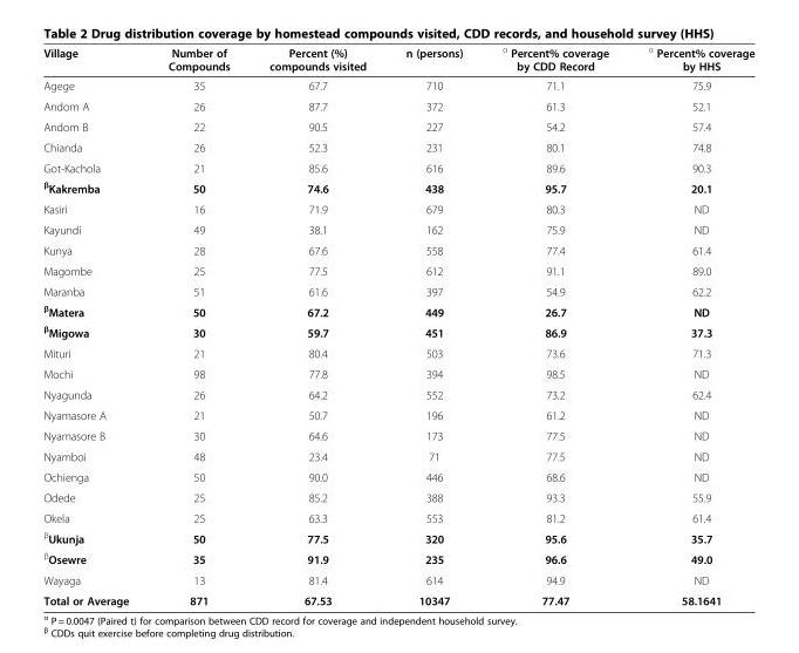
<table><thead><tr><td>Village</td><td>Number of Compounds</td><td>Percent (%) compounds visited</td><td>n (persons)</td><td><sup>α</sup> Percent% coverage by CDD Record</td><td><sup>α</sup> Percent% coverage by HHS</td></tr></thead><tbody><tr><td>Agege</td><td>35</td><td>67.7</td><td>710</td><td>71.1</td><td>75.9</td></tr><tr><td>Andom A</td><td>26</td><td>87.7</td><td>372</td><td>61.3</td><td>52.1</td></tr><tr><td>Andom B</td><td>22</td><td>90.5</td><td>227</td><td>54.2</td><td>57.4</td></tr><tr><td>Chianda</td><td>26</td><td>52.3</td><td>231</td><td>80.1</td><td>74.8</td></tr><tr><td>Got-Kachola</td><td>21</td><td>85.6</td><td>616</td><td>89.6</td><td>90.3</td></tr><tr><td><sup>β</sup>Kakremba</td><td>50</td><td>74.6</td><td>438</td><td>95.7</td><td>20.1</td></tr><tr><td>Kasiri</td><td>16</td><td>71.9</td><td>679</td><td>80.3</td><td>ND</td></tr><tr><td>Kayundi</td><td>49</td><td>38.1</td><td>162</td><td>75.9</td><td>ND</td></tr><tr><td>Kunya</td><td>28</td><td>67.6</td><td>558</td><td>77.4</td><td>61.4</td></tr><tr><td>Magombe</td><td>25</td><td>77.5</td><td>612</td><td>91.1</td><td>89.0</td></tr><tr><td>Maranba</td><td>51</td><td>61.6</td><td>397</td><td>54.9</td><td>62.2</td></tr><tr><td><sup>β</sup>Matera</td><td>50</td><td>67.2</td><td>449</td><td>26.7</td><td>ND</td></tr><tr><td><sup>β</sup>Migowa</td><td>30</td><td>59.7</td><td>451</td><td>86.9</td><td>37.3</td></tr><tr><td>Mituri</td><td>21</td><td>80.4</td><td>503</td><td>73.6</td><td>71.3</td></tr><tr><td>Mochi</td><td>98</td><td>77.8</td><td>394</td><td>98.5</td><td>ND</td></tr><tr><td>Nyagunda</td><td>26</td><td>64.2</td><td>552</td><td>73.2</td><td>62.4</td></tr><tr><td>Nyamasore A</td><td>21</td><td>50.7</td><td>196</td><td>61.2</td><td>ND</td></tr><tr><td>Nyamasore B</td><td>30</td><td>64.6</td><td>173</td><td>77.5</td><td>ND</td></tr><tr><td>Nyamboi</td><td>48</td><td>23.4</td><td>71</td><td>77.5</td><td>ND</td></tr><tr><td>Ochienga</td><td>50</td><td>90.0</td><td>446</td><td>68.6</td><td>ND</td></tr><tr><td>Odede</td><td>25</td><td>85.2</td><td>388</td><td>93.3</td><td>55.9</td></tr><tr><td>Okela</td><td>25</td><td>63.3</td><td>553</td><td>81.2</td><td>61.4</td></tr><tr><td><sup>β</sup>Ukunja</td><td>50</td><td>77.5</td><td>320</td><td>95.6</td><td>35.7</td></tr><tr><td><sup>β</sup>Osewre</td><td>35</td><td>91.9</td><td>235</td><td>96.6</td><td>49.0</td></tr><tr><td>Wayaga</td><td>13</td><td>81.4</td><td>614</td><td>94.9</td><td>ND</td></tr><tr><td>Total or Average</td><td>871</td><td>67.53</td><td>10347</td><td>77.47</td><td>58.1641</td></tr></tbody></table>